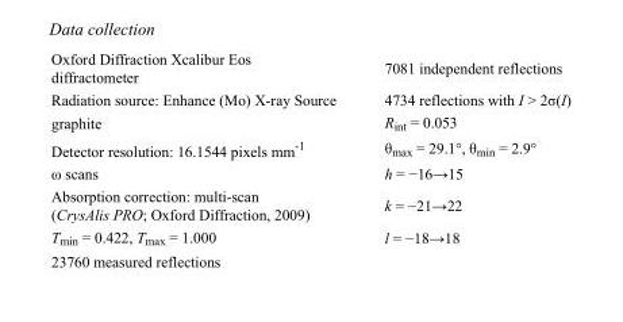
<table><tbody><tr><td>Oxford Diffraction Xcalibur Eos diffractometer</td><td>7081 independent reflections</td></tr><tr><td>Radiation source: Enhance (Mo) X-ray Source</td><td>4734 reflections with I &gt; 2σ(I)</td></tr><tr><td>graphite</td><td>R<sub>int</sub> = 0.053</td></tr><tr><td>Detector resolution: 16.1544 pixels mm<sup>-1</sup></td><td>θ<sub>max</sub> = 29.1°, θ<sub>min</sub> = 2.9°</td></tr><tr><td>ω scans</td><td>h = −16→15</td></tr><tr><td>Absorption correction: multi-scan (CrysAlis PRO; Oxford Diffraction, 2009)</td><td>k = −21→22</td></tr><tr><td>T<sub>min</sub> = 0.422, T<sub>max</sub> = 1.000</td><td>l = −18→18</td></tr><tr><td>23760 measured reflections</td><td></td></tr></tbody></table>